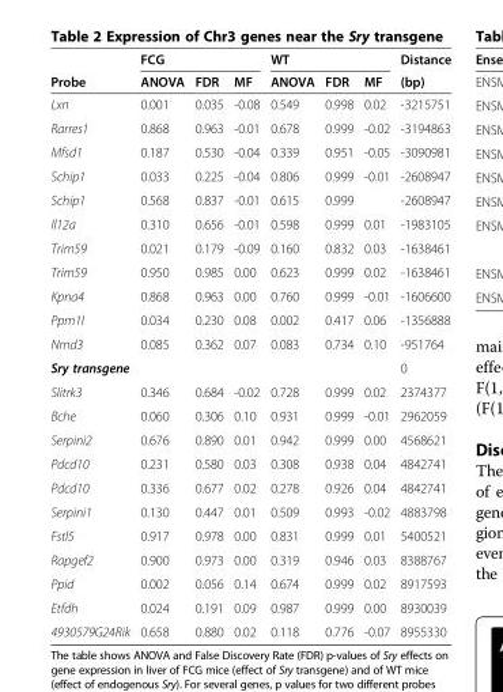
<table><thead><tr><td rowspan="2">Probe</td><td colspan="3">FCG</td><td colspan="3">WT</td><td rowspan="2">Distance (bp)</td></tr><tr><td>ANOVA</td><td>FDR</td><td>MF</td><td>ANOVA</td><td>FDR</td><td>MF</td></tr></thead><tbody><tr><td>Lxn</td><td>0.001</td><td>0.035</td><td>-0.08</td><td>0.549</td><td>0.998</td><td>0.02</td><td>-3215751</td></tr><tr><td>Rarres1</td><td>0.868</td><td>0.963</td><td>-0.01</td><td>0.678</td><td>0.999</td><td>-0.02</td><td>-3194863</td></tr><tr><td>Mfsd1</td><td>0.187</td><td>0.530</td><td>-0.04</td><td>0.339</td><td>0.951</td><td>-0.05</td><td>-3090981</td></tr><tr><td>Schip1</td><td>0.033</td><td>0.225</td><td>-0.04</td><td>0.806</td><td>0.999</td><td>-0.01</td><td>-2608947</td></tr><tr><td>Schip1</td><td>0.568</td><td>0.837</td><td>-0.01</td><td>0.615</td><td>0.999</td><td></td><td>-2608947</td></tr><tr><td>Il12a</td><td>0.310</td><td>0.656</td><td>-0.01</td><td>0.598</td><td>0.999</td><td>0.01</td><td>-1983105</td></tr><tr><td>Trim59</td><td>0.021</td><td>0.179</td><td>-0.09</td><td>0.160</td><td>0.832</td><td>0.03</td><td>-1638461</td></tr><tr><td>Trim59</td><td>0.950</td><td>0.985</td><td>0.00</td><td>0.623</td><td>0.999</td><td>0.02</td><td>-1638461</td></tr><tr><td>Kpna4</td><td>0.868</td><td>0.963</td><td>0.00</td><td>0.760</td><td>0.999</td><td>-0.01</td><td>-1606600</td></tr><tr><td>Ppm1l</td><td>0.034</td><td>0.230</td><td>0.08</td><td>0.002</td><td>0.417</td><td>0.06</td><td>-1356888</td></tr><tr><td>Nmd3</td><td>0.085</td><td>0.362</td><td>0.07</td><td>0.083</td><td>0.734</td><td>0.10</td><td>-951764</td></tr><tr><td>Sry transgene</td><td></td><td></td><td></td><td></td><td></td><td></td><td>0</td></tr><tr><td>Slitrk3</td><td>0.346</td><td>0.684</td><td>-0.02</td><td>0.728</td><td>0.999</td><td>0.02</td><td>2374377</td></tr><tr><td>Bche</td><td>0.060</td><td>0.306</td><td>0.10</td><td>0.931</td><td>0.999</td><td>-0.01</td><td>2962059</td></tr><tr><td>Serpini2</td><td>0.676</td><td>0.890</td><td>0.01</td><td>0.942</td><td>0.999</td><td>0.00</td><td>4568621</td></tr><tr><td>Pdcd10</td><td>0.231</td><td>0.580</td><td>0.03</td><td>0.308</td><td>0.938</td><td>0.04</td><td>4842741</td></tr><tr><td>Pdcd10</td><td>0.336</td><td>0.677</td><td>0.02</td><td>0.278</td><td>0.926</td><td>0.04</td><td>4842741</td></tr><tr><td>Serpini1</td><td>0.130</td><td>0.447</td><td>0.01</td><td>0.509</td><td>0.993</td><td>-0.02</td><td>4883798</td></tr><tr><td>Fstl5</td><td>0.917</td><td>0.978</td><td>0.00</td><td>0.831</td><td>0.999</td><td>0.01</td><td>5400521</td></tr><tr><td>Rapgef2</td><td>0.900</td><td>0.973</td><td>0.00</td><td>0.319</td><td>0.946</td><td>0.03</td><td>8388767</td></tr><tr><td>Ppid</td><td>0.002</td><td>0.056</td><td>0.14</td><td>0.674</td><td>0.999</td><td>0.02</td><td>8917593</td></tr><tr><td>Etfdh</td><td>0.024</td><td>0.191</td><td>0.09</td><td>0.987</td><td>0.999</td><td>0.00</td><td>8930039</td></tr><tr><td>4930579G24Rik</td><td>0.658</td><td>0.880</td><td>0.02</td><td>0.118</td><td>0.776</td><td>-0.07</td><td>8955330</td></tr></tbody></table>